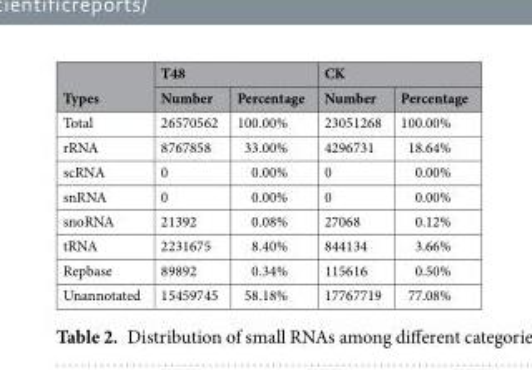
<table><thead><tr><td rowspan="2">Types</td><td colspan="2">T48</td><td colspan="2">CK</td></tr><tr><td>Number</td><td>Percentage</td><td>Number</td><td>Percentage</td></tr></thead><tbody><tr><td>Total</td><td>26570562</td><td>100.00%</td><td>23051268</td><td>100.00%</td></tr><tr><td>rRNA</td><td>8767858</td><td>33.00%</td><td>4296731</td><td>18.64%</td></tr><tr><td>scRNA</td><td>0</td><td>0.00%</td><td>0</td><td>0.00%</td></tr><tr><td>snRNA</td><td>0</td><td>0.00%</td><td>0</td><td>0.00%</td></tr><tr><td>snoRNA</td><td>21392</td><td>0.08%</td><td>27068</td><td>0.12%</td></tr><tr><td>tRNA</td><td>2231675</td><td>8.40%</td><td>844134</td><td>3.66%</td></tr><tr><td>Repbase</td><td>89892</td><td>0.34%</td><td>115616</td><td>0.50%</td></tr><tr><td>Unannotated</td><td>15459745</td><td>58.18%</td><td>17767719</td><td>77.08%</td></tr></tbody></table>